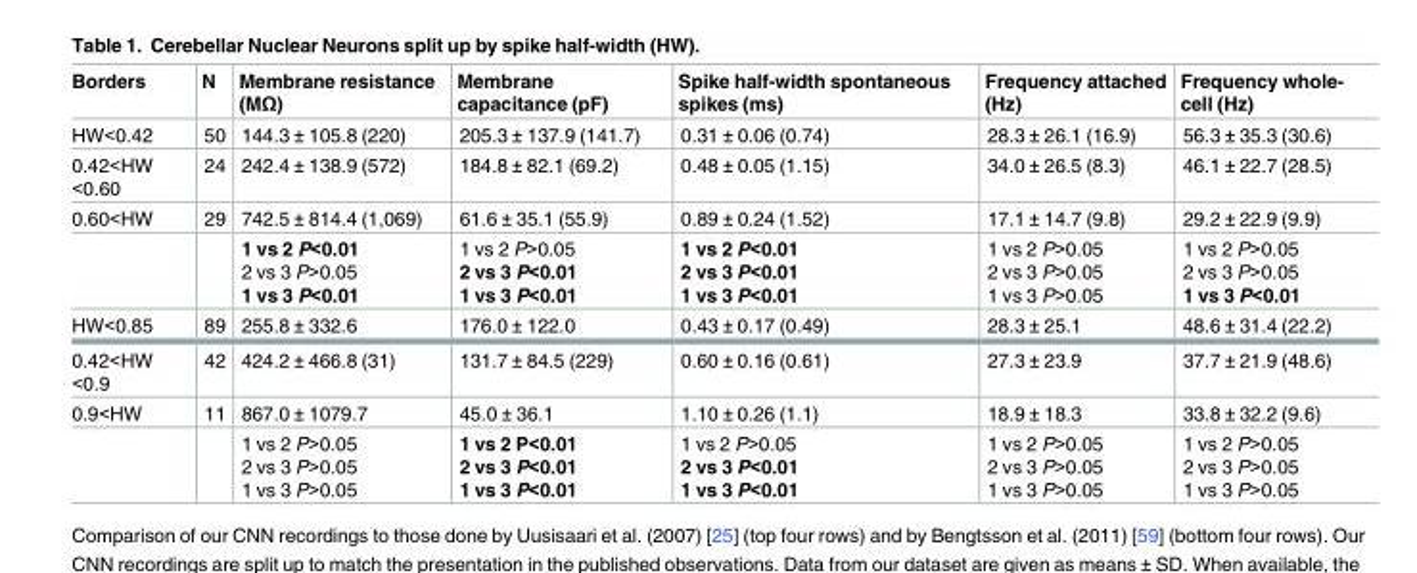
<table><thead><tr><td>Borders</td><td>N</td><td>Membrane resistance (MΩ)</td><td>Membrane capacitance (pF)</td><td>Spike half-width spontaneous spikes (ms)</td><td>Frequency attached (Hz)</td><td>Frequency whole- cell (Hz)</td></tr></thead><tbody><tr><td>HW&lt;0.42</td><td>50</td><td>144.3 ± 105.8 (220)</td><td>205.3 ± 137.9 (141.7)</td><td>0.31 ± 0.06 (0.74)</td><td>28.3 ± 26.1 (16.9)</td><td>56.3 ± 35.3 (30.6)</td></tr><tr><td>0.42&lt;HW &lt;0.60</td><td>24</td><td>242.4 ± 138.9 (572)</td><td>184.8 ± 82.1 (69.2)</td><td>0.48 ± 0.05 (1.15)</td><td>34.0 ± 26.5 (8.3)</td><td>46.1 ± 22.7 (28.5)</td></tr><tr><td rowspan="2">0.60&lt;HW</td><td>29</td><td>742.5 ± 814.4 (1,069)</td><td>61.6 ± 35.1 (55.9)</td><td>0.89 ± 0.24 (1.52)</td><td>17.1 ± 14.7 (9.8)</td><td>29.2 ± 22.9 (9.9)</td></tr><tr><td></td><td>1 vs 2 P&lt;0.01 2 vs 3 P&gt;0.05 1 vs 3 P&lt;0.01</td><td>1 vs 2 P&gt;0.05 2 vs 3 P&lt;0.01 1 vs 3 P&lt;0.01</td><td>1 vs 2 P&lt;0.01 2 vs 3 P&lt;0.01 1 vs 3 P&lt;0.01</td><td>1 vs 2 P&gt;0.05 2 vs 3 P&gt;0.05 1 vs 3 P&gt;0.05</td><td>1 vs 2 P&gt;0.05 2 vs 3 P&gt;0.05 1 vs 3 P&lt;0.01</td></tr><tr><td>HW&lt;0.85</td><td>89</td><td>255.8 ± 332.6</td><td>176.0 ± 122.0</td><td>0.43 ± 0.17 (0.49)</td><td>28.3 ± 25.1</td><td>48.6 ± 31.4 (22.2)</td></tr><tr><td>0.42&lt;HW &lt;0.9</td><td>42</td><td>424.2 ± 466.8 (31)</td><td>131.7 ± 84.5 (229)</td><td>0.60 ± 0.16 (0.61)</td><td>27.3 ± 23.9</td><td>37.7 ± 21.9 (48.6)</td></tr><tr><td rowspan="2">0.9&lt;HW</td><td>11</td><td>867.0 ± 1079.7</td><td>45.0 ± 36.1</td><td>1.10 ± 0.26 (1.1)</td><td>18.9 ± 18.3</td><td>33.8 ± 32.2 (9.6)</td></tr><tr><td></td><td>1 vs 2 P&gt;0.05 2 vs 3 P&gt;0.05 1 vs 3 P&gt;0.05</td><td>1 vs 2 P&lt;0.01 2 vs 3 P&lt;0.01 1 vs 3 P&lt;0.01</td><td>1 vs 2 P&gt;0.05 2 vs 3 P&lt;0.01 1 vs 3 P&lt;0.01</td><td>1 vs 2 P&gt;0.05 2 vs 3 P&gt;0.05 1 vs 3 P&gt;0.05</td><td>1 vs 2 P&gt;0.05 2 vs 3 P&gt;0.05 1 vs 3 P&gt;0.05</td></tr></tbody></table>